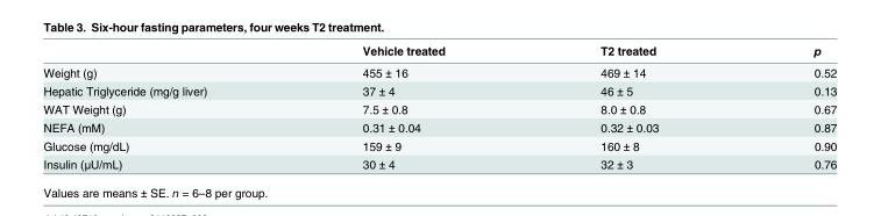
<table><thead><tr><td></td><td>Vehicle treated</td><td>T2 treated</td><td>p</td></tr></thead><tbody><tr><td>Weight (g)</td><td>455 ± 16</td><td>469 ± 14</td><td>0.52</td></tr><tr><td>Hepatic Triglyceride (mg/g liver)</td><td>37 ± 4</td><td>46 ± 5</td><td>0.13</td></tr><tr><td>WAT Weight (g)</td><td>7.5 ± 0.8</td><td>8.0 ± 0.8</td><td>0.67</td></tr><tr><td>NEFA (mM)</td><td>0.31 ± 0.04</td><td>0.32 ± 0.03</td><td>0.87</td></tr><tr><td>Glucose (mg/dL)</td><td>159 ± 9</td><td>160 ± 8</td><td>0.90</td></tr><tr><td>Insulin (μU/mL)</td><td>30 ± 4</td><td>32 ± 3</td><td>0.76</td></tr></tbody></table>